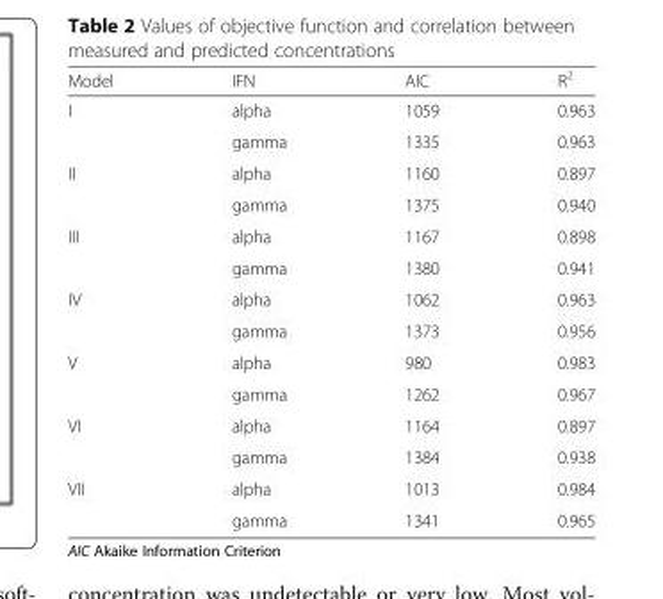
<table><thead><tr><td>Model</td><td>IFN</td><td>AIC</td><td>R<sup>2</sup></td></tr></thead><tbody><tr><td rowspan="2">I</td><td>alpha</td><td>1059</td><td>0.963</td></tr><tr><td>gamma</td><td>1335</td><td>0.963</td></tr><tr><td rowspan="2">II</td><td>alpha</td><td>1160</td><td>0.897</td></tr><tr><td>gamma</td><td>1375</td><td>0.940</td></tr><tr><td rowspan="2">III</td><td>alpha</td><td>1167</td><td>0.898</td></tr><tr><td>gamma</td><td>1380</td><td>0.941</td></tr><tr><td rowspan="2">IV</td><td>alpha</td><td>1062</td><td>0.963</td></tr><tr><td>gamma</td><td>1373</td><td>0.956</td></tr><tr><td rowspan="2">V</td><td>alpha</td><td>980</td><td>0.983</td></tr><tr><td>gamma</td><td>1262</td><td>0.967</td></tr><tr><td rowspan="2">VI</td><td>alpha</td><td>1164</td><td>0.897</td></tr><tr><td>gamma</td><td>1384</td><td>0.938</td></tr><tr><td rowspan="2">VII</td><td>alpha</td><td>1013</td><td>0.984</td></tr><tr><td>gamma</td><td>1341</td><td>0.965</td></tr></tbody></table>